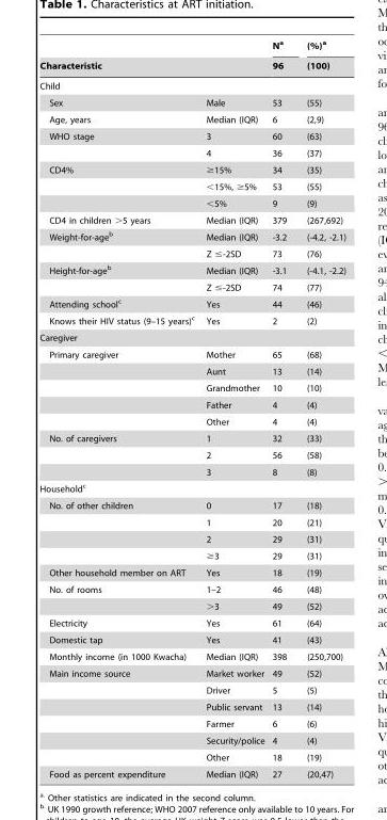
<table><thead><tr><td></td><td></td><td rowspan="2">N<sup>a</sup> 96</td><td rowspan="2">(%)<sup>a</sup> (100)</td></tr><tr><td colspan="2">Characteristic</td></tr></thead><tbody><tr><td colspan="4">Child</td></tr><tr><td>Sex</td><td>Male</td><td>53</td><td>(55)</td></tr><tr><td>Age, years</td><td>Median (IQR)</td><td>6</td><td>(2,9)</td></tr><tr><td rowspan="2">WHO stage</td><td>3</td><td>60</td><td>(63)</td></tr><tr><td>4</td><td>36</td><td>(37)</td></tr><tr><td rowspan="3">CD4%</td><td>≥15%</td><td>34</td><td>(35)</td></tr><tr><td>&lt;15%, ≥5%</td><td>53</td><td>(55)</td></tr><tr><td>&lt;5%</td><td>9</td><td>(9)</td></tr><tr><td>CD4 in children &gt;5 years</td><td>Median (IQR)</td><td>379</td><td>(267,692)</td></tr><tr><td rowspan="2">Weight-for-age<sup>b</sup></td><td>Median (IQR)</td><td>-3.2</td><td>(-4.2, -2.1)</td></tr><tr><td>Z ≤-2SD</td><td>73</td><td>(76)</td></tr><tr><td rowspan="2">Height-for-age<sup>b</sup></td><td>Median (IQR)</td><td>-3.1</td><td>(-4.1, -2.2)</td></tr><tr><td>Z ≤-2SD</td><td>74</td><td>(77)</td></tr><tr><td>Attending school<sup>c</sup></td><td>Yes</td><td>44</td><td>(46)</td></tr><tr><td>Knows their HIV status (9–15 years)<sup>c</sup></td><td>Yes</td><td>2</td><td>(2)</td></tr><tr><td colspan="4">Caregiver</td></tr><tr><td rowspan="5">Primary caregiver</td><td>Mother</td><td>65</td><td>(68)</td></tr><tr><td>Aunt</td><td>13</td><td>(14)</td></tr><tr><td>Grandmother</td><td>10</td><td>(10)</td></tr><tr><td>Father</td><td>4</td><td>(4)</td></tr><tr><td>Other</td><td>4</td><td>(4)</td></tr><tr><td rowspan="3">No. of caregivers</td><td>1</td><td>32</td><td>(33)</td></tr><tr><td>2</td><td>56</td><td>(58)</td></tr><tr><td>3</td><td>8</td><td>(8)</td></tr><tr><td colspan="4">Household<sup>c</sup></td></tr><tr><td rowspan="4">No. of other children</td><td>0</td><td>17</td><td>(18)</td></tr><tr><td>1</td><td>20</td><td>(21)</td></tr><tr><td>2</td><td>29</td><td>(31)</td></tr><tr><td>≥3</td><td>29</td><td>(31)</td></tr><tr><td>Other household member on ART</td><td>Yes</td><td>18</td><td>(19)</td></tr><tr><td rowspan="2">No. of rooms</td><td>1–2</td><td>46</td><td>(48)</td></tr><tr><td>&gt;3</td><td>49</td><td>(52)</td></tr><tr><td>Electricity</td><td>Yes</td><td>61</td><td>(64)</td></tr><tr><td>Domestic tap</td><td>Yes</td><td>41</td><td>(43)</td></tr><tr><td>Monthly income (in 1000 Kwacha)</td><td>Median (IQR)</td><td>398</td><td>(250,700)</td></tr><tr><td rowspan="6">Main income source</td><td>Market worker</td><td>49</td><td>(52)</td></tr><tr><td>Driver</td><td>5</td><td>(5)</td></tr><tr><td>Public servant</td><td>13</td><td>(14)</td></tr><tr><td>Farmer</td><td>6</td><td>(6)</td></tr><tr><td>Security/police</td><td>4</td><td>(4)</td></tr><tr><td>Other</td><td>18</td><td>(19)</td></tr><tr><td>Food as percent expenditure</td><td>Median (IQR)</td><td>27</td><td>(20,47)</td></tr></tbody></table>